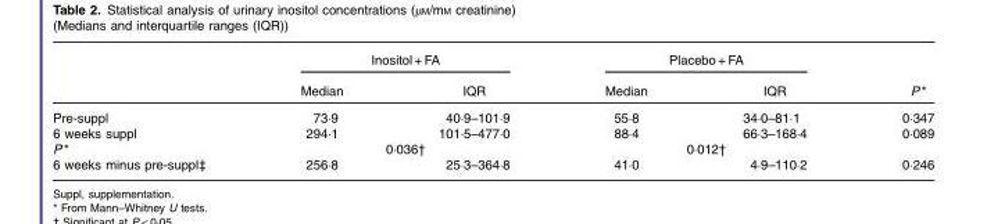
<table><thead><tr><td rowspan="2"></td><td colspan="2">Inositol + FA</td><td colspan="2">Placebo + FA</td><td rowspan="2">P *</td></tr><tr><td>Median</td><td>IQR</td><td>Median</td><td>IQR</td></tr></thead><tbody><tr><td>Pre-suppl</td><td>73·9</td><td>40·9–101·9</td><td>55·8</td><td>34·0–81·1</td><td>0·347</td></tr><tr><td>6 weeks suppl</td><td>294·1</td><td>101·5–477·0</td><td>88·4</td><td>66·3–168·4</td><td>0·089</td></tr><tr><td>P *</td><td colspan="2">0·036†</td><td colspan="2">0·012†</td><td></td></tr><tr><td>6 weeks minus pre-suppl‡</td><td>256·8</td><td>25·3–364·8</td><td>41·0</td><td>4·9–110·2</td><td>0·246</td></tr></tbody></table>